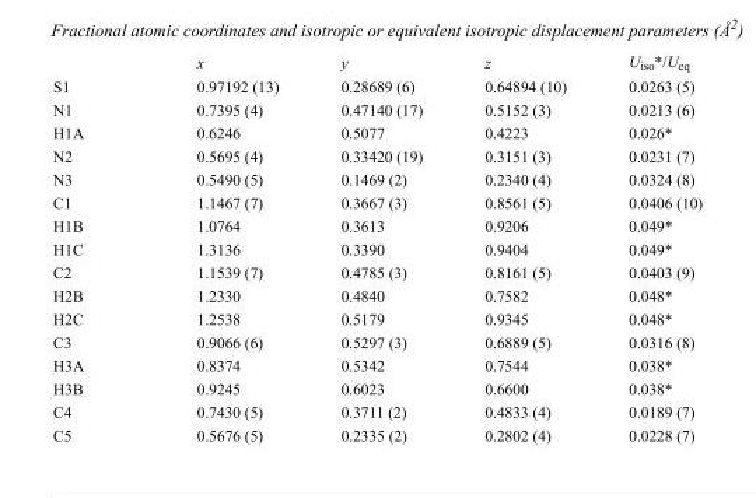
<table><thead><tr><td></td><td>x</td><td>y</td><td>z</td><td>U<sub>iso</sub>*/U<sub>eq</sub></td></tr></thead><tbody><tr><td>S1</td><td>0.97192 (13)</td><td>0.28689 (6)</td><td>0.64894 (10)</td><td>0.0263 (5)</td></tr><tr><td>N1</td><td>0.7395 (4)</td><td>0.47140 (17)</td><td>0.5152 (3)</td><td>0.0213 (6)</td></tr><tr><td>H1A</td><td>0.6246</td><td>0.5077</td><td>0.4223</td><td>0.026*</td></tr><tr><td>N2</td><td>0.5695 (4)</td><td>0.33420 (19)</td><td>0.3151 (3)</td><td>0.0231 (7)</td></tr><tr><td>N3</td><td>0.5490 (5)</td><td>0.1469 (2)</td><td>0.2340 (4)</td><td>0.0324 (8)</td></tr><tr><td>C1</td><td>1.1467 (7)</td><td>0.3667 (3)</td><td>0.8561 (5)</td><td>0.0406 (10)</td></tr><tr><td>H1B</td><td>1.0764</td><td>0.3613</td><td>0.9206</td><td>0.049*</td></tr><tr><td>H1C</td><td>1.3136</td><td>0.3390</td><td>0.9404</td><td>0.049*</td></tr><tr><td>C2</td><td>1.1539 (7)</td><td>0.4785 (3)</td><td>0.8161 (5)</td><td>0.0403 (9)</td></tr><tr><td>H2B</td><td>1.2330</td><td>0.4840</td><td>0.7582</td><td>0.048*</td></tr><tr><td>H2C</td><td>1.2538</td><td>0.5179</td><td>0.9345</td><td>0.048*</td></tr><tr><td>C3</td><td>0.9066 (6)</td><td>0.5297 (3)</td><td>0.6889 (5)</td><td>0.0316 (8)</td></tr><tr><td>H3A</td><td>0.8374</td><td>0.5342</td><td>0.7544</td><td>0.038*</td></tr><tr><td>H3B</td><td>0.9245</td><td>0.6023</td><td>0.6600</td><td>0.038*</td></tr><tr><td>C4</td><td>0.7430 (5)</td><td>0.3711 (2)</td><td>0.4833 (4)</td><td>0.0189 (7)</td></tr><tr><td>C5</td><td>0.5676 (5)</td><td>0.2335 (2)</td><td>0.2802 (4)</td><td>0.0228 (7)</td></tr></tbody></table>